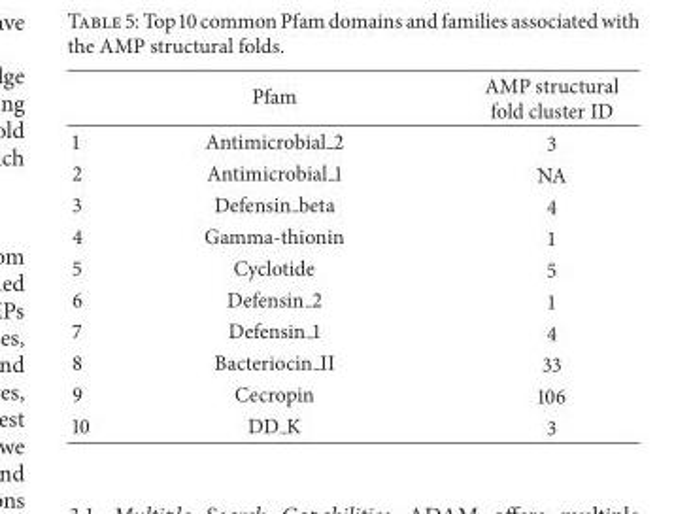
<table><thead><tr><td></td><td>Pfam</td><td>AMP structural fold cluster ID</td></tr></thead><tbody><tr><td>1</td><td>Antimicrobial 2</td><td>3</td></tr><tr><td>2</td><td>Antimicrobial 1</td><td>NA</td></tr><tr><td>3</td><td>Defensin beta</td><td>4</td></tr><tr><td>4</td><td>Gamma-thionin</td><td>1</td></tr><tr><td>5</td><td>Cyclotide</td><td>5</td></tr><tr><td>6</td><td>Defensin 2</td><td>1</td></tr><tr><td>7</td><td>Defensin 1</td><td>4</td></tr><tr><td>8</td><td>Bacteriocin II</td><td>33</td></tr><tr><td>9</td><td>Cecropin</td><td>106</td></tr><tr><td>10</td><td>DD K</td><td>3</td></tr></tbody></table>